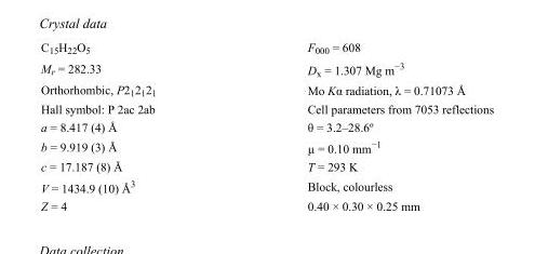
<table><tbody><tr><td>C<sub>15</sub>H<sub>22</sub>O<sub>5</sub></td><td>F000 = 608</td></tr><tr><td>M<sub>r</sub> = 282.33</td><td>D<sub>x</sub> = 1.307 Mg m<sup>−3</sup></td></tr><tr><td>Orthorhombic, P2<sub>1</sub>2<sub>1</sub>2<sub>1</sub></td><td>Mo Kα radiation, λ = 0.71073 Å</td></tr><tr><td>Hall symbol: P 2ac 2ab</td><td>Cell parameters from 7053 reflections</td></tr><tr><td>a = 8.417 (4) Å</td><td>θ = 3.2–28.6º</td></tr><tr><td>b = 9.919 (3) Å</td><td>µ = 0.10 mm<sup>−1</sup></td></tr><tr><td>c = 17.187 (8) Å</td><td>T = 293 K</td></tr><tr><td>V = 1434.9 (10) Å<sup>3</sup></td><td>Block, colourless</td></tr><tr><td>Z = 4</td><td>0.40 × 0.30 × 0.25 mm</td></tr></tbody></table>